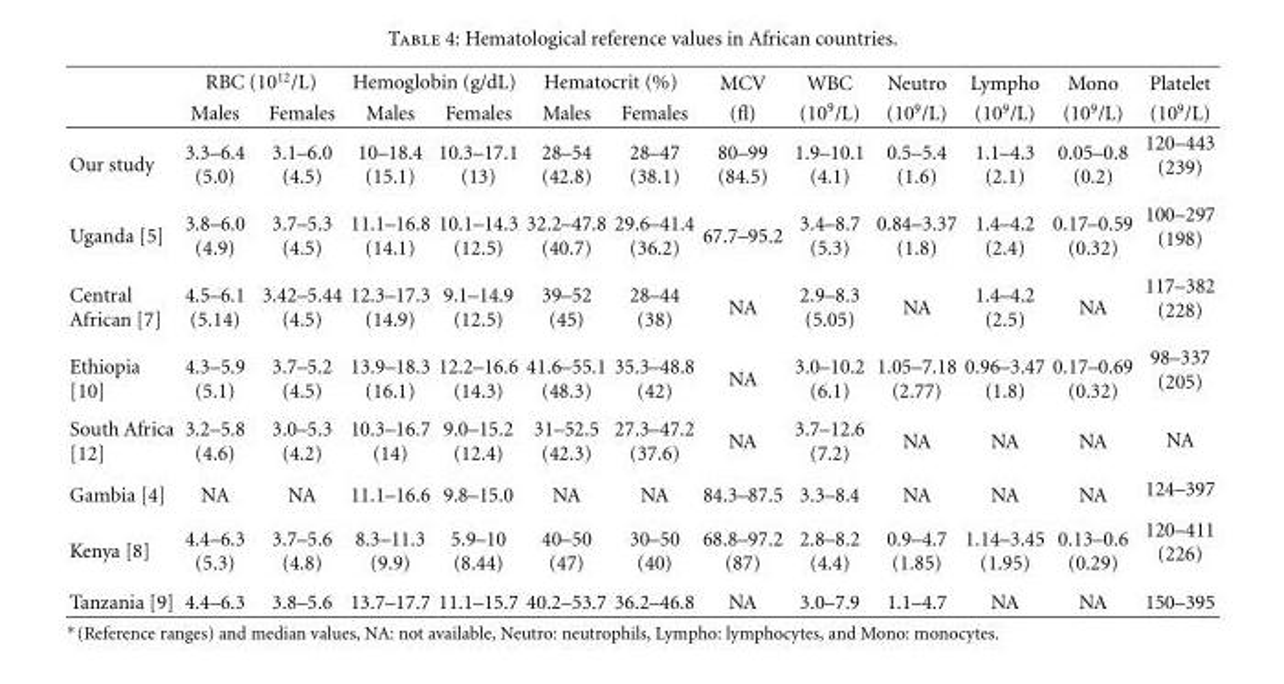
<table><thead><tr><td rowspan="2"></td><td colspan="2">RBC (10<sup>12</sup>/L)</td><td colspan="2">Hemoglobin (g/dL)</td><td colspan="2">Hematocrit (%)</td><td rowspan="2">MCV (fl)</td><td rowspan="2">WBC (10<sup>9</sup>/L)</td><td rowspan="2">Neutro (10<sup>9</sup>/L)</td><td rowspan="2">Lympho (10<sup>9</sup>/L)</td><td rowspan="2">Mono (10<sup>9</sup>/L)</td><td rowspan="2">Platelet (10<sup>9</sup>/L)</td></tr><tr><td>Males</td><td>Females</td><td>Males</td><td>Females</td><td>Males</td><td>Females</td></tr></thead><tbody><tr><td>Our study</td><td>3.3–6.4 (5.0)</td><td>3.1–6.0 (4.5)</td><td>10–18.4 (15.1)</td><td>10.3–17.1 (13)</td><td>28–54 (42.8)</td><td>28–47 (38.1)</td><td>80–99 (84.5)</td><td>1.9–10.1 (4.1)</td><td>0.5–5.4 (1.6)</td><td>1.1–4.3 (2.1)</td><td>0.05–0.8 (0.2)</td><td>120–443 (239)</td></tr><tr><td>Uganda [5]</td><td>3.8–6.0 (4.9)</td><td>3.7–5.3 (4.5)</td><td>11.1–16.8 (14.1)</td><td>10.1–14.3 (12.5)</td><td>32.2–47.8 (40.7)</td><td>29.6–41.4 (36.2)</td><td>67.7–95.2</td><td>3.4–8.7 (5.3)</td><td>0.84–3.37 (1.8)</td><td>1.4–4.2 (2.4)</td><td>0.17–0.59 (0.32)</td><td>100–297 (198)</td></tr><tr><td>Central African [7]</td><td>4.5–6.1 (5.14)</td><td>3.42–5.44 (4.5)</td><td>12.3–17.3 (14.9)</td><td>9.1–14.9 (12.5)</td><td>39–52 (45)</td><td>28–44 (38)</td><td>NA</td><td>2.9–8.3 (5.05)</td><td>NA</td><td>1.4–4.2 (2.5)</td><td>NA</td><td>117–382 (228)</td></tr><tr><td>Ethiopia [10]</td><td>4.3–5.9 (5.1)</td><td>3.7–5.2 (4.5)</td><td>13.9–18.3 (16.1)</td><td>12.2–16.6 (14.3)</td><td>41.6–55.1 (48.3)</td><td>35.3–48.8 (42)</td><td>NA</td><td>3.0–10.2 (6.1)</td><td>1.05–7.18 (2.77)</td><td>0.96–3.47 (1.8)</td><td>0.17–0.69 (0.32)</td><td>98–337 (205)</td></tr><tr><td>South Africa [12]</td><td>3.2–5.8 (4.6)</td><td>3.0–5.3 (4.2)</td><td>10.3–16.7 (14)</td><td>9.0–15.2 (12.4)</td><td>31–52.5 (42.3)</td><td>27.3–47.2 (37.6)</td><td>NA</td><td>3.7–12.6 (7.2)</td><td>NA</td><td>NA</td><td>NA</td><td>NA</td></tr><tr><td>Gambia [4]</td><td>NA</td><td>NA</td><td>11.1–16.6</td><td>9.8–15.0</td><td>NA</td><td>NA</td><td>84.3–87.5</td><td>3.3–8.4</td><td>NA</td><td>NA</td><td>NA</td><td>124–397</td></tr><tr><td>Kenya [8]</td><td>4.4–6.3 (5.3)</td><td>3.7–5.6 (4.8)</td><td>8.3–11.3 (9.9)</td><td>5.9–10 (8.44)</td><td>40–50 (47)</td><td>30–50 (40)</td><td>68.8–97.2 (87)</td><td>2.8–8.2 (4.4)</td><td>0.9–4.7 (1.85)</td><td>1.14–3.45 (1.95)</td><td>0.13–0.6 (0.29)</td><td>120–411 (226)</td></tr><tr><td>Tanzania [9]</td><td>4.4–6.3</td><td>3.8–5.6</td><td>13.7–17.7</td><td>11.1–15.7</td><td>40.2–53.7</td><td>36.2–46.8</td><td>NA</td><td>3.0–7.9</td><td>1.1–4.7</td><td>NA</td><td>NA</td><td>150–395</td></tr></tbody></table>